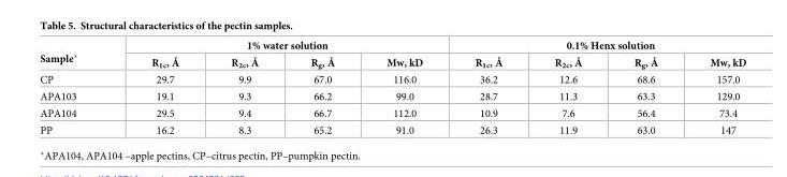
<table><thead><tr><td rowspan="2">Sample*</td><td colspan="4">1% water solution</td><td colspan="4">0.1% Henx solution</td></tr><tr><td>R<sub>1c</sub>, Å</td><td>R<sub>2c</sub>, Å</td><td>R<sub>g</sub>, Å</td><td>Mw, kD</td><td>R<sub>1c</sub>, Å</td><td>R<sub>2c</sub>, Å</td><td>R<sub>g</sub>, Å</td><td>Mw, kD</td></tr></thead><tbody><tr><td>CP</td><td>29.7</td><td>9.9</td><td>67.0</td><td>116.0</td><td>36.2</td><td>12.6</td><td>68.6</td><td>157.0</td></tr><tr><td>APA103</td><td>19.1</td><td>9.3</td><td>66.2</td><td>99.0</td><td>28.7</td><td>11.3</td><td>63.3</td><td>129.0</td></tr><tr><td>APA104</td><td>29.5</td><td>9.4</td><td>66.7</td><td>112.0</td><td>10.9</td><td>7.6</td><td>56.4</td><td>73.4</td></tr><tr><td>PP</td><td>16.2</td><td>8.3</td><td>65.2</td><td>91.0</td><td>26.3</td><td>11.9</td><td>63.0</td><td>147</td></tr></tbody></table>